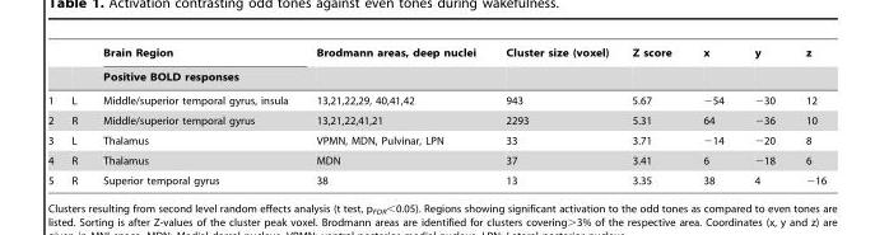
<table><thead><tr><td rowspan="2"></td><td rowspan="2"></td><td rowspan="2">Brain Region Positive BOLD responses</td><td rowspan="2">Brodmann areas, deep nuclei</td><td rowspan="2">Cluster size (voxel)</td><td rowspan="2">Z score</td><td rowspan="2">x</td><td rowspan="2">y</td><td rowspan="2">z</td></tr><tr></tr></thead><tbody><tr><td>1</td><td>L</td><td>Middle/superior temporal gyrus, insula</td><td>13,21,22,29, 40,41,42</td><td>943</td><td>5.67</td><td>−54</td><td>−30</td><td>12</td></tr><tr><td>2</td><td>R</td><td>Middle/superior temporal gyrus</td><td>13,21,22,41,21</td><td>2293</td><td>5.31</td><td>64</td><td>−36</td><td>10</td></tr><tr><td>3</td><td>L</td><td>Thalamus</td><td>VPMN, MDN, Pulvinar, LPN</td><td>33</td><td>3.71</td><td>−14</td><td>−20</td><td>8</td></tr><tr><td>4</td><td>R</td><td>Thalamus</td><td>MDN</td><td>37</td><td>3.41</td><td>6</td><td>−18</td><td>6</td></tr><tr><td>5</td><td>R</td><td>Superior temporal gyrus</td><td>38</td><td>13</td><td>3.35</td><td>38</td><td>4</td><td>−16</td></tr></tbody></table>